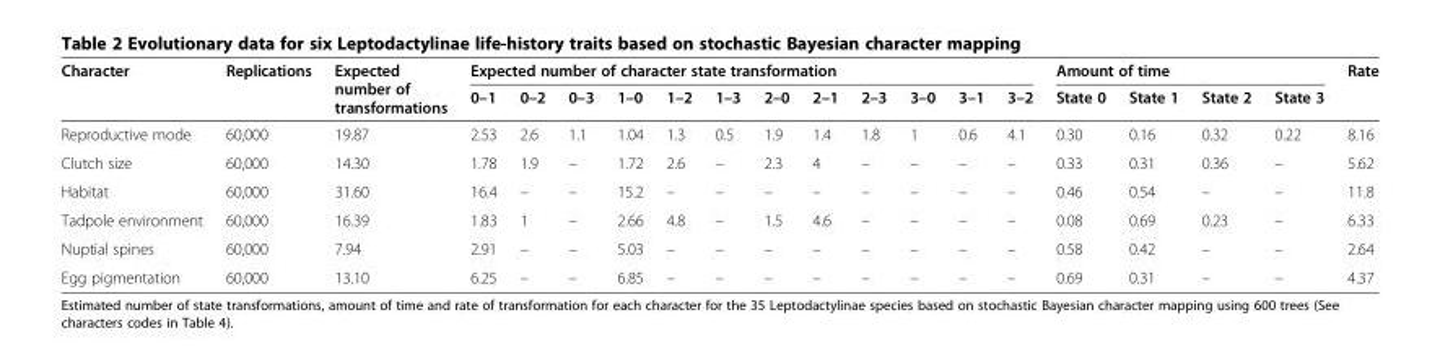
<table><thead><tr><td rowspan="2">Character</td><td rowspan="2">Replications</td><td rowspan="2">Expected number of transformations</td><td colspan="12">Expected number of character state transformation</td><td colspan="4">Amount of time</td><td rowspan="2">Rate</td></tr><tr><td>0–1</td><td>0–2</td><td>0–3</td><td>1–0</td><td>1–2</td><td>1–3</td><td>2–0</td><td>2–1</td><td>2–3</td><td>3–0</td><td>3–1</td><td>3–2</td><td>State 0</td><td>State 1</td><td>State 2</td><td>State 3</td></tr></thead><tbody><tr><td>Reproductive mode</td><td>60,000</td><td>19.87</td><td>2.53</td><td>2.6</td><td>1.1</td><td>1.04</td><td>1.3</td><td>0.5</td><td>1.9</td><td>1.4</td><td>1.8</td><td>1</td><td>0.6</td><td>4.1</td><td>0.30</td><td>0.16</td><td>0.32</td><td>0.22</td><td>8.16</td></tr><tr><td>Clutch size</td><td>60,000</td><td>14.30</td><td>1.78</td><td>1.9</td><td>–</td><td>1.72</td><td>2.6</td><td>–</td><td>2.3</td><td>4</td><td>–</td><td>–</td><td>–</td><td>–</td><td>0.33</td><td>0.31</td><td>0.36</td><td>–</td><td>5.62</td></tr><tr><td>Habitat</td><td>60,000</td><td>31.60</td><td>16.4</td><td>–</td><td>–</td><td>15.2</td><td>–</td><td>–</td><td>–</td><td>–</td><td>–</td><td>–</td><td>–</td><td>–</td><td>0.46</td><td>0.54</td><td>–</td><td>–</td><td>11.8</td></tr><tr><td>Tadpole environment</td><td>60,000</td><td>16.39</td><td>1.83</td><td>1</td><td>–</td><td>2.66</td><td>4.8</td><td>–</td><td>1.5</td><td>4.6</td><td>–</td><td>–</td><td>–</td><td>–</td><td>0.08</td><td>0.69</td><td>0.23</td><td>–</td><td>6.33</td></tr><tr><td>Nuptial spines</td><td>60,000</td><td>7.94</td><td>2.91</td><td>–</td><td>–</td><td>5.03</td><td>–</td><td>–</td><td>–</td><td>–</td><td>–</td><td>–</td><td>–</td><td>–</td><td>0.58</td><td>0.42</td><td>–</td><td>–</td><td>2.64</td></tr><tr><td>Egg pigmentation</td><td>60,000</td><td>13.10</td><td>6.25</td><td>–</td><td>–</td><td>6.85</td><td>–</td><td>–</td><td>–</td><td>–</td><td>–</td><td>–</td><td>–</td><td>–</td><td>0.69</td><td>0.31</td><td>–</td><td>–</td><td>4.37</td></tr></tbody></table>